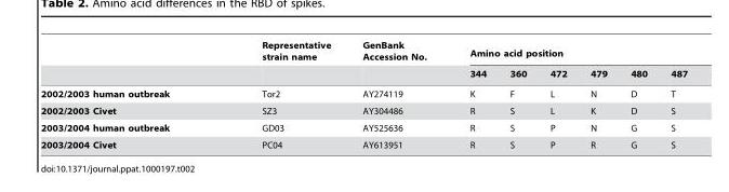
<table><thead><tr><td rowspan="2"></td><td rowspan="2">Representative strain name</td><td rowspan="2">GenBank Accession No.</td><td colspan="6">Amino acid position</td></tr><tr><td>344</td><td>360</td><td>472</td><td>479</td><td>480</td><td>487</td></tr></thead><tbody><tr><td>2002/2003 human outbreak</td><td>Tor2</td><td>AY274119</td><td>K</td><td>F</td><td>L</td><td>N</td><td>D</td><td>T</td></tr><tr><td>2002/2003 Civet</td><td>SZ3</td><td>AY304486</td><td>R</td><td>S</td><td>L</td><td>K</td><td>D</td><td>S</td></tr><tr><td>2003/2004 human outbreak</td><td>GD03</td><td>AY525636</td><td>R</td><td>S</td><td>P</td><td>N</td><td>G</td><td>S</td></tr><tr><td>2003/2004 Civet</td><td>PC04</td><td>AY613951</td><td>R</td><td>S</td><td>P</td><td>R</td><td>G</td><td>S</td></tr></tbody></table>